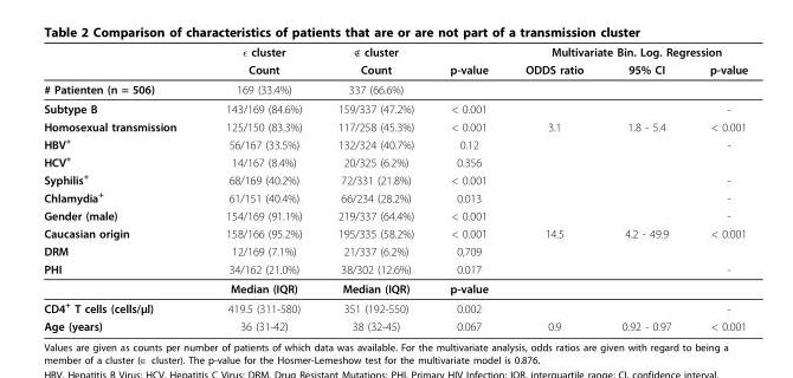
<table><thead><tr><td rowspan="2"></td><td rowspan="2">∈ cluster Count</td><td rowspan="2">∉ cluster Count</td><td rowspan="2">p-value</td><td colspan="3">Multivariate Bin. Log. Regression</td></tr><tr><td>ODDS ratio</td><td>95% CI</td><td>p-value</td></tr></thead><tbody><tr><td># Patienten (n = 506)</td><td>169 (33.4%)</td><td>337 (66.6%)</td><td></td><td></td><td></td><td></td></tr><tr><td>Subtype B</td><td>143/169 (84.6%)</td><td>159/337 (47.2%)</td><td>&lt; 0.001</td><td></td><td></td><td>-</td></tr><tr><td>Homosexual transmission</td><td>125/150 (83.3%)</td><td>117/258 (45.3%)</td><td>&lt; 0.001</td><td>3.1</td><td>1.8 - 5.4</td><td>&lt; 0.001</td></tr><tr><td>HBV<sup>+</sup></td><td>56/167 (33.5%)</td><td>132/324 (40.7%)</td><td>0.12</td><td></td><td></td><td>-</td></tr><tr><td>HCV<sup>+</sup></td><td>14/167 (8.4%)</td><td>20/325 (6.2%)</td><td>0.356</td><td></td><td></td><td></td></tr><tr><td>Syphilis<sup>+</sup></td><td>68/169 (40.2%)</td><td>72/331 (21.8%)</td><td>&lt; 0.001</td><td></td><td></td><td>-</td></tr><tr><td>Chlamydia<sup>+</sup></td><td>61/151 (40.4%)</td><td>66/234 (28.2%)</td><td>0.013</td><td></td><td></td><td>-</td></tr><tr><td>Gender (male)</td><td>154/169 (91.1%)</td><td>219/337 (64.4%)</td><td>&lt; 0.001</td><td></td><td></td><td>-</td></tr><tr><td>Caucasian origin</td><td>158/166 (95.2%)</td><td>195/335 (58.2%)</td><td>&lt; 0.001</td><td>14.5</td><td>4.2 - 49.9</td><td>&lt; 0.001</td></tr><tr><td>DRM</td><td>12/169 (7.1%)</td><td>21/337 (6.2%)</td><td>0,709</td><td></td><td></td><td></td></tr><tr><td rowspan="2">PHI</td><td>34/162 (21.0%)</td><td>38/302 (12.6%)</td><td>0.017</td><td></td><td></td><td>-</td></tr><tr><td>Median (IQR)</td><td>Median (IQR)</td><td>p-value</td><td></td><td></td><td></td></tr><tr><td>CD4<sup>+</sup> T cells (cells/μl)</td><td>419.5 (311-580)</td><td>351 (192-550)</td><td>0.002</td><td></td><td></td><td>-</td></tr><tr><td>Age (years)</td><td>36 (31-42)</td><td>38 (32-45)</td><td>0.067</td><td>0.9</td><td>0.92 - 0.97</td><td>&lt; 0.001</td></tr></tbody></table>